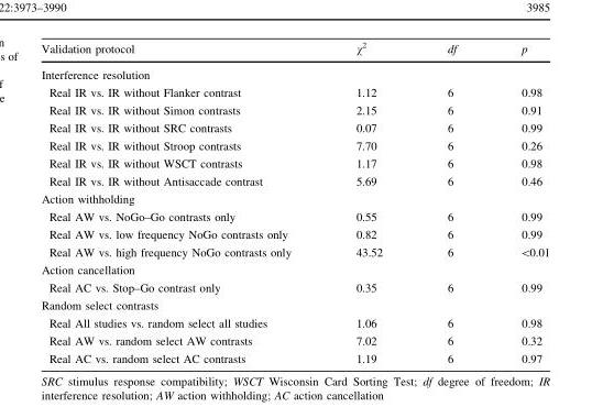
<table><thead><tr><td>Validation protocol</td><td>χ<sup>2</sup></td><td>df</td><td>p</td></tr></thead><tbody><tr><td colspan="4">Interference resolution</td></tr><tr><td>Real IR vs. IR without Flanker contrast</td><td>1.12</td><td>6</td><td>0.98</td></tr><tr><td>Real IR vs. IR without Simon contrasts</td><td>2.15</td><td>6</td><td>0.91</td></tr><tr><td>Real IR vs. IR without SRC contrasts</td><td>0.07</td><td>6</td><td>0.99</td></tr><tr><td>Real IR vs. IR without Stroop contrasts</td><td>7.70</td><td>6</td><td>0.26</td></tr><tr><td>Real IR vs. IR without WSCT contrasts</td><td>1.17</td><td>6</td><td>0.98</td></tr><tr><td>Real IR vs. IR without Antisaccade contrast</td><td>5.69</td><td>6</td><td>0.46</td></tr><tr><td colspan="4">Action withholding</td></tr><tr><td>Real AW vs. NoGo–Go contrasts only</td><td>0.55</td><td>6</td><td>0.99</td></tr><tr><td>Real AW vs. low frequency NoGo contrasts only</td><td>0.82</td><td>6</td><td>0.99</td></tr><tr><td>Real AW vs. high frequency NoGo contrasts only</td><td>43.52</td><td>6</td><td>&lt;0.01</td></tr><tr><td colspan="4">Action cancellation</td></tr><tr><td>Real AC vs. Stop–Go contrast only</td><td>0.35</td><td>6</td><td>0.99</td></tr><tr><td colspan="4">Random select contrasts</td></tr><tr><td>Real All studies vs. random select all studies</td><td>1.06</td><td>6</td><td>0.98</td></tr><tr><td>Real AW vs. random select AW contrasts</td><td>7.02</td><td>6</td><td>0.32</td></tr><tr><td>Real AC vs. random select AC contrasts</td><td>1.19</td><td>6</td><td>0.97</td></tr></tbody></table>